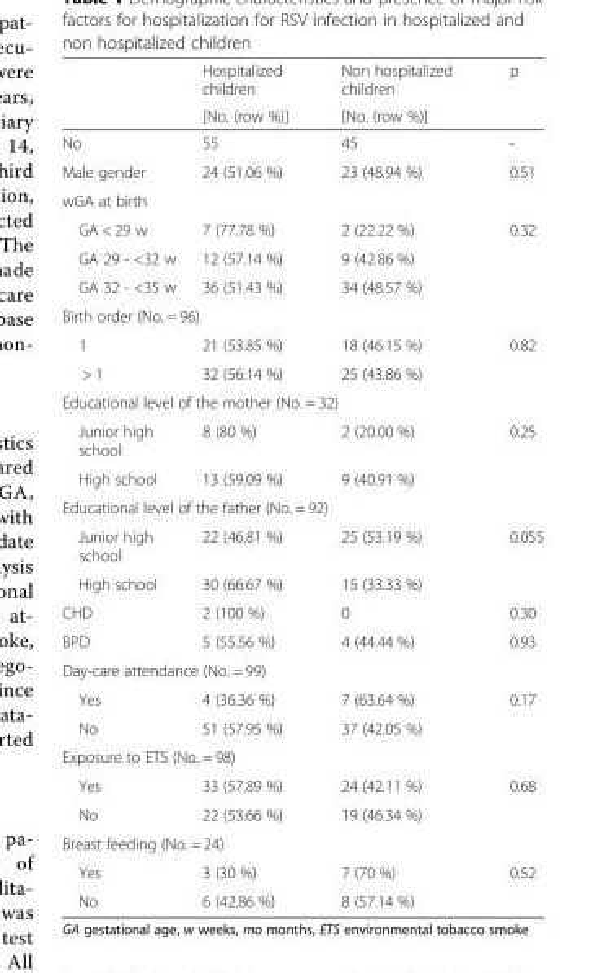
<table><thead><tr><td rowspan="2"></td><td rowspan="2">Hospitalized children [No. (row %)]</td><td rowspan="2">Non hospitalized children [No. (row %)]</td><td rowspan="2">p</td></tr><tr></tr></thead><tbody><tr><td>No</td><td>55</td><td>45</td><td>-</td></tr><tr><td>Male gender</td><td>24 (51.06 %)</td><td>23 (48.94 %)</td><td>0.51</td></tr><tr><td colspan="4">wGA at birth</td></tr><tr><td>GA &lt; 29 w</td><td>7 (77.78 %)</td><td>2 (22.22 %)</td><td>0.32</td></tr><tr><td>GA 29 - &lt;32 w</td><td>12 (57.14 %)</td><td>9 (42.86 %)</td><td></td></tr><tr><td>GA 32 - &lt;35 w</td><td>36 (51.43 %)</td><td>34 (48.57 %)</td><td></td></tr><tr><td colspan="4">Birth order (No. = 96)</td></tr><tr><td>1</td><td>21 (53.85 %)</td><td>18 (46.15 %)</td><td>0.82</td></tr><tr><td>&gt; 1</td><td>32 (56.14 %)</td><td>25 (43.86 %)</td><td></td></tr><tr><td colspan="4">Educational level of the mother (No. = 32)</td></tr><tr><td>Junior high school</td><td>8 (80 %)</td><td>2 (20.00 %)</td><td>0.25</td></tr><tr><td>High school</td><td>13 (59.09 %)</td><td>9 (40.91 %)</td><td></td></tr><tr><td colspan="4">Educational level of the father (No. = 92)</td></tr><tr><td>Junior high school</td><td>22 (46.81 %)</td><td>25 (53.19 %)</td><td>0.055</td></tr><tr><td>High school</td><td>30 (66.67 %)</td><td>15 (33.33 %)</td><td></td></tr><tr><td>CHD</td><td>2 (100 %)</td><td>0</td><td>0.30</td></tr><tr><td>BPD</td><td>5 (55.56 %)</td><td>4 (44.44 %)</td><td>0.93</td></tr><tr><td colspan="4">Day-care attendance (No. = 99)</td></tr><tr><td>Yes</td><td>4 (36.36 %)</td><td>7 (63.64 %)</td><td>0.17</td></tr><tr><td>No</td><td>51 (57.95 %)</td><td>37 (42.05 %)</td><td></td></tr><tr><td colspan="4">Exposure to ETS (No. = 98)</td></tr><tr><td>Yes</td><td>33 (57.89 %)</td><td>24 (42.11 %)</td><td>0.68</td></tr><tr><td>No</td><td>22 (53.66 %)</td><td>19 (46.34 %)</td><td></td></tr><tr><td colspan="4">Breast feeding (No. = 24)</td></tr><tr><td>Yes</td><td>3 (30 %)</td><td>7 (70 %)</td><td>0.52</td></tr><tr><td>No</td><td>6 (42.86 %)</td><td>8 (57.14 %)</td><td></td></tr></tbody></table>